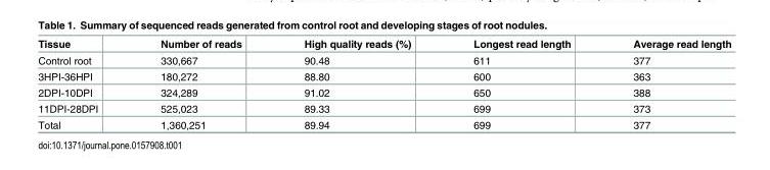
<table><thead><tr><td>Tissue</td><td>Number of reads</td><td>High quality reads (%)</td><td>Longest read length</td><td>Average read length</td></tr></thead><tbody><tr><td>Control root</td><td>330,667</td><td>90.48</td><td>611</td><td>377</td></tr><tr><td>3HPI-36HPI</td><td>180,272</td><td>88.80</td><td>600</td><td>363</td></tr><tr><td>2DPI-10DPI</td><td>324,289</td><td>91.02</td><td>650</td><td>388</td></tr><tr><td>11DPI-28DPI</td><td>525,023</td><td>89.33</td><td>699</td><td>373</td></tr><tr><td>Total</td><td>1,360,251</td><td>89.94</td><td>699</td><td>377</td></tr></tbody></table>